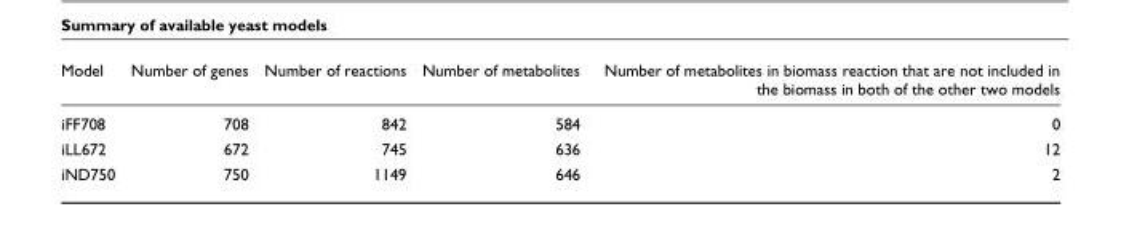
<table><thead><tr><td>Model</td><td>Number of genes</td><td>Number of reactions</td><td>Number of metabolites</td><td>Number of metabolites in biomass reaction that are not included in the biomass in both of the other two models</td></tr></thead><tbody><tr><td>iFF708</td><td>708</td><td>842</td><td>584</td><td>0</td></tr><tr><td>iLL672</td><td>672</td><td>745</td><td>636</td><td>12</td></tr><tr><td>iND750</td><td>750</td><td>1149</td><td>646</td><td>2</td></tr></tbody></table>